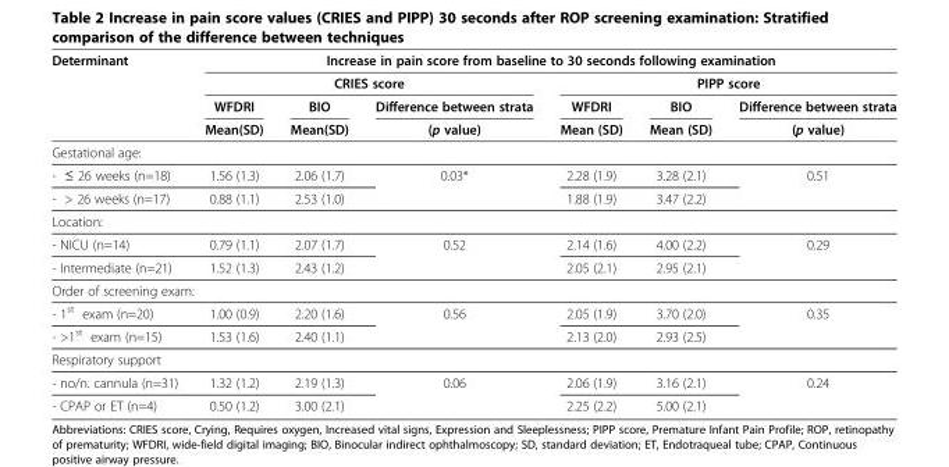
<table><thead><tr><td rowspan="4">Determinant</td><td colspan="6">Increase in pain score from baseline to 30 seconds following examination</td></tr><tr><td colspan="3">CRIES score</td><td colspan="3">PIPP score</td></tr><tr><td rowspan="2">WFDRI Mean(SD)</td><td rowspan="2">BIO Mean(SD)</td><td rowspan="2">Difference between strata (p value)</td><td rowspan="2">WFDRI Mean (SD)</td><td rowspan="2">BIO Mean (SD)</td><td rowspan="2">Difference between strata (p value)</td></tr><tr></tr></thead><tbody><tr><td colspan="7">Gestational age:</td></tr><tr><td>- ≤ 26 weeks (n=18)</td><td>1.56 (1.3)</td><td>2.06 (1.7)</td><td rowspan="2">0.03*</td><td>2.28 (1.9)</td><td>3.28 (2.1)</td><td rowspan="2">0.51</td></tr><tr><td>- &gt; 26 weeks (n=17)</td><td>0.88 (1.1)</td><td>2.53 (1.0)</td><td>1.88 (1.9)</td><td>3.47 (2.2)</td></tr><tr><td colspan="7">Location:</td></tr><tr><td>- NICU (n=14)</td><td>0.79 (1.1)</td><td>2.07 (1.7)</td><td rowspan="2">0.52</td><td>2.14 (1.6)</td><td>4.00 (2.2)</td><td rowspan="2">0.29</td></tr><tr><td>- Intermediate (n=21)</td><td>1.52 (1.3)</td><td>2.43 (1.2)</td><td>2.05 (2.1)</td><td>2.95 (2.1)</td></tr><tr><td colspan="7">Order of screening exam:</td></tr><tr><td>- 1<sup>st</sup> exam (n=20)</td><td>1.00 (0.9)</td><td>2.20 (1.6)</td><td rowspan="2">0.56</td><td>2.05 (1.9)</td><td>3.70 (2.0)</td><td rowspan="2">0.35</td></tr><tr><td>- &gt;1<sup>st</sup> exam (n=15)</td><td>1.53 (1.6)</td><td>2.40 (1.1)</td><td>2.13 (2.0)</td><td>2.93 (2.5)</td></tr><tr><td colspan="7">Respiratory support</td></tr><tr><td>- no/n. cannula (n=31)</td><td>1.32 (1.2)</td><td>2.19 (1.3)</td><td rowspan="2">0.06</td><td>2.06 (1.9)</td><td>3.16 (2.1)</td><td rowspan="2">0.24</td></tr><tr><td>- CPAP or ET (n=4)</td><td>0.50 (1.2)</td><td>3.00 (2.1)</td><td>2.25 (2.2)</td><td>5.00 (2.1)</td></tr></tbody></table>